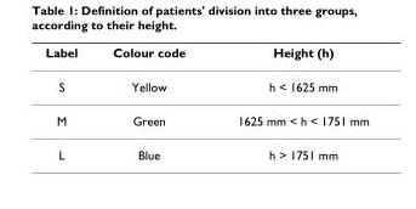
<table><thead><tr><td>Label</td><td>Colour code</td><td>Height (h)</td></tr></thead><tbody><tr><td>S</td><td>Yellow</td><td>h &lt; 1625 mm</td></tr><tr><td>M</td><td>Green</td><td>1625 mm &lt; h &lt; 1751 mm</td></tr><tr><td>L</td><td>Blue</td><td>h &gt; 1751 mm</td></tr></tbody></table>